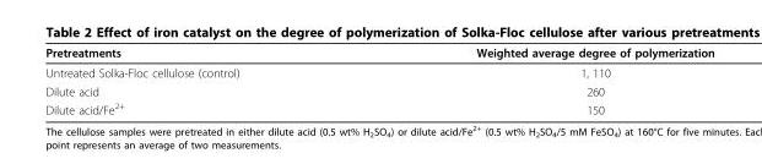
<table><thead><tr><td>Pretreatments</td><td>Weighted average degree of polymerization</td></tr></thead><tbody><tr><td>Untreated Solka-Floc cellulose (control)</td><td>1, 110</td></tr><tr><td>Dilute acid</td><td>260</td></tr><tr><td>Dilute acid/Fe<sup>2+</sup></td><td>150</td></tr></tbody></table>